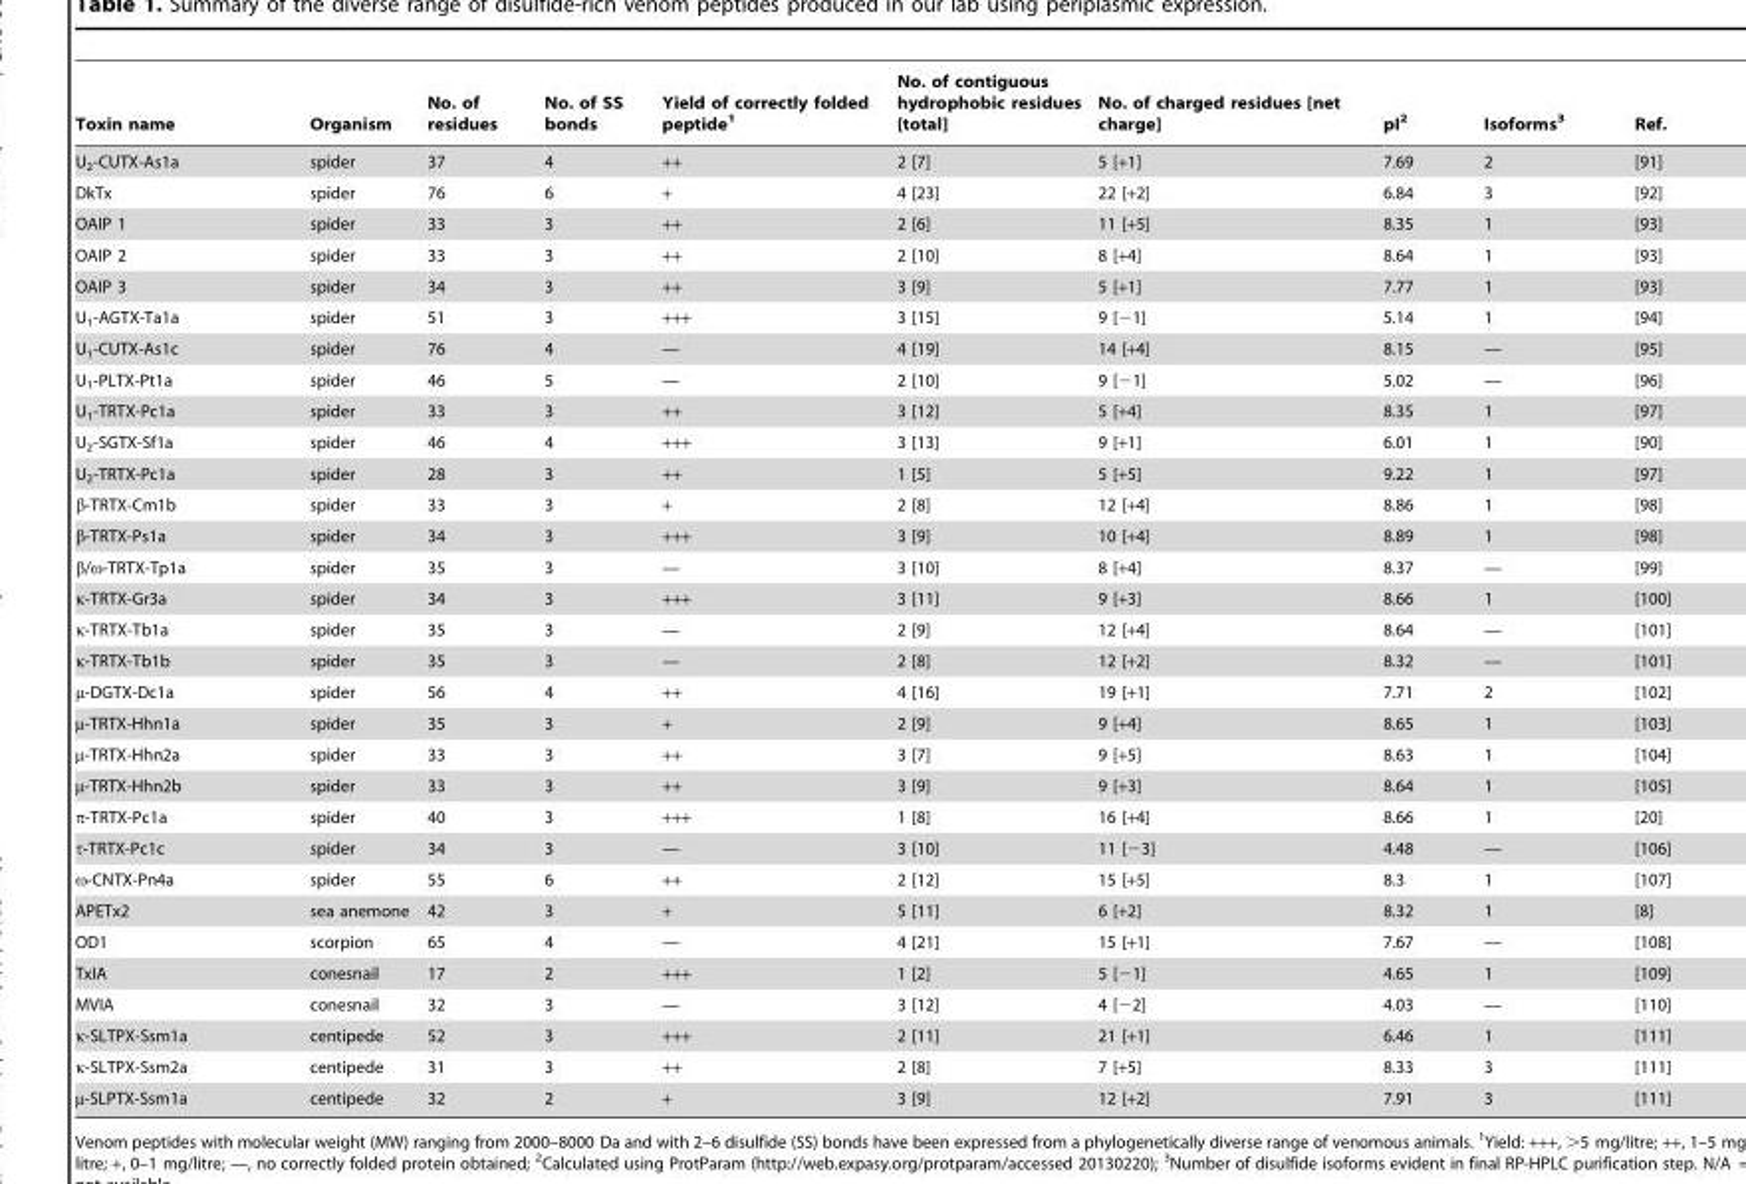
<table><thead><tr><td>Toxin name</td><td>Organism</td><td>No. of residues</td><td>No. of SS bonds</td><td>Yield of correctly folded peptide<sup>1</sup></td><td>No. of contiguous hydrophobic residues [total]</td><td>No. of charged residues [net charge]</td><td>pI<sup>2</sup></td><td>Isoforms<sup>3</sup></td><td>Ref.</td></tr></thead><tbody><tr><td>U<sub>2</sub>-CUTX-As1a</td><td>spider</td><td>37</td><td>4</td><td>++</td><td>2 [7]</td><td>5 [+1]</td><td>7.69</td><td>2</td><td>[91]</td></tr><tr><td>DkTx</td><td>spider</td><td>76</td><td>6</td><td>+</td><td>4 [23]</td><td>22 [+2]</td><td>6.84</td><td>3</td><td>[92]</td></tr><tr><td>OAIP 1</td><td>spider</td><td>33</td><td>3</td><td>++</td><td>2 [6]</td><td>11 [+5]</td><td>8.35</td><td>1</td><td>[93]</td></tr><tr><td>OAIP 2</td><td>spider</td><td>33</td><td>3</td><td>++</td><td>2 [10]</td><td>8 [+4]</td><td>8.64</td><td>1</td><td>[93]</td></tr><tr><td>OAIP 3</td><td>spider</td><td>34</td><td>3</td><td>++</td><td>3 [9]</td><td>5 [+1]</td><td>7.77</td><td>1</td><td>[93]</td></tr><tr><td>U<sub>1</sub>-AGTX-Ta1a</td><td>spider</td><td>51</td><td>3</td><td>+++</td><td>3 [15]</td><td>9 [−1]</td><td>5.14</td><td>1</td><td>[94]</td></tr><tr><td>U<sub>1</sub>-CUTX-As1c</td><td>spider</td><td>76</td><td>4</td><td>—</td><td>4 [19]</td><td>14 [+4]</td><td>8.15</td><td>—</td><td>[95]</td></tr><tr><td>U<sub>1</sub>-PLTX-Pt1a</td><td>spider</td><td>46</td><td>5</td><td>—</td><td>2 [10]</td><td>9 [−1]</td><td>5.02</td><td>—</td><td>[96]</td></tr><tr><td>U<sub>1</sub>-TRTX-Pc1a</td><td>spider</td><td>33</td><td>3</td><td>++</td><td>3 [12]</td><td>5 [+4]</td><td>8.35</td><td>1</td><td>[97]</td></tr><tr><td>U<sub>2</sub>-SGTX-Sf1a</td><td>spider</td><td>46</td><td>4</td><td>+++</td><td>3 [13]</td><td>9 [+1]</td><td>6.01</td><td>1</td><td>[90]</td></tr><tr><td>U<sub>2</sub>-TRTX-Pc1a</td><td>spider</td><td>28</td><td>3</td><td>++</td><td>1 [5]</td><td>5 [+5]</td><td>9.22</td><td>1</td><td>[97]</td></tr><tr><td>β-TRTX-Cm1b</td><td>spider</td><td>33</td><td>3</td><td>+</td><td>2 [8]</td><td>12 [+4]</td><td>8.86</td><td>1</td><td>[98]</td></tr><tr><td>β-TRTX-Ps1a</td><td>spider</td><td>34</td><td>3</td><td>+++</td><td>3 [9]</td><td>10 [+4]</td><td>8.89</td><td>1</td><td>[98]</td></tr><tr><td>β/ω-TRTX-Tp1a</td><td>spider</td><td>35</td><td>3</td><td>—</td><td>3 [10]</td><td>8 [+4]</td><td>8.37</td><td>—</td><td>[99]</td></tr><tr><td>κ-TRTX-Gr3a</td><td>spider</td><td>34</td><td>3</td><td>+++</td><td>3 [11]</td><td>9 [+3]</td><td>8.66</td><td>1</td><td>[100]</td></tr><tr><td>κ-TRTX-Tb1a</td><td>spider</td><td>35</td><td>3</td><td>—</td><td>2 [9]</td><td>12 [+4]</td><td>8.64</td><td>—</td><td>[101]</td></tr><tr><td>κ-TRTX-Tb1b</td><td>spider</td><td>35</td><td>3</td><td>—</td><td>2 [8]</td><td>12 [+2]</td><td>8.32</td><td>—</td><td>[101]</td></tr><tr><td>μ-DGTX-Dc1a</td><td>spider</td><td>56</td><td>4</td><td>++</td><td>4 [16]</td><td>19 [+1]</td><td>7.71</td><td>2</td><td>[102]</td></tr><tr><td>µ-TRTX-Hhn1a</td><td>spider</td><td>35</td><td>3</td><td>+</td><td>2 [9]</td><td>9 [+4]</td><td>8.65</td><td>1</td><td>[103]</td></tr><tr><td>µ-TRTX-Hhn2a</td><td>spider</td><td>33</td><td>3</td><td>++</td><td>3 [7]</td><td>9 [+5]</td><td>8.63</td><td>1</td><td>[104]</td></tr><tr><td>µ-TRTX-Hhn2b</td><td>spider</td><td>33</td><td>3</td><td>++</td><td>3 [9]</td><td>9 [+3]</td><td>8.64</td><td>1</td><td>[105]</td></tr><tr><td>π-TRTX-Pc1a</td><td>spider</td><td>40</td><td>3</td><td>+++</td><td>1 [8]</td><td>16 [+4]</td><td>8.66</td><td>1</td><td>[20]</td></tr><tr><td>τ-TRTX-Pc1c</td><td>spider</td><td>34</td><td>3</td><td>—</td><td>3 [10]</td><td>11 [−3]</td><td>4.48</td><td>—</td><td>[106]</td></tr><tr><td>ω-CNTX-Pn4a</td><td>spider</td><td>55</td><td>6</td><td>++</td><td>2 [12]</td><td>15 [+5]</td><td>8.3</td><td>1</td><td>[107]</td></tr><tr><td>APETx2</td><td>sea anemone</td><td>42</td><td>3</td><td>+</td><td>5 [11]</td><td>6 [+2]</td><td>8.32</td><td>1</td><td>[8]</td></tr><tr><td>OD1</td><td>scorpion</td><td>65</td><td>4</td><td>—</td><td>4 [21]</td><td>15 [+1]</td><td>7.67</td><td>—</td><td>[108]</td></tr><tr><td>TxIA</td><td>conesnail</td><td>17</td><td>2</td><td>+++</td><td>1 [2]</td><td>5 [−1]</td><td>4.65</td><td>1</td><td>[109]</td></tr><tr><td>MVIA</td><td>conesnail</td><td>32</td><td>3</td><td>—</td><td>3 [12]</td><td>4 [−2]</td><td>4.03</td><td>—</td><td>[110]</td></tr><tr><td>κ-SLTPX-Ssm1a</td><td>centipede</td><td>52</td><td>3</td><td>+++</td><td>2 [11]</td><td>21 [+1]</td><td>6.46</td><td>1</td><td>[111]</td></tr><tr><td>κ-SLTPX-Ssm2a</td><td>centipede</td><td>31</td><td>3</td><td>++</td><td>2 [8]</td><td>7 [+5]</td><td>8.33</td><td>3</td><td>[111]</td></tr><tr><td>µ-SLPTX-Ssm1a</td><td>centipede</td><td>32</td><td>2</td><td>+</td><td>3 [9]</td><td>12 [+2]</td><td>7.91</td><td>3</td><td>[111]</td></tr></tbody></table>